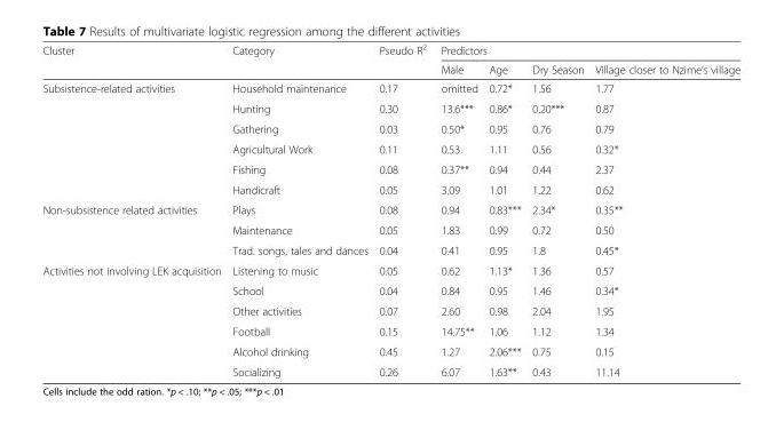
<table><thead><tr><td rowspan="2">Cluster</td><td rowspan="2">Category</td><td rowspan="2">Pseudo R<sup>2</sup></td><td colspan="4">Predictors</td></tr><tr><td>Male</td><td>Age</td><td>Dry Season</td><td>Village closer to Nzime’s village</td></tr></thead><tbody><tr><td rowspan="6">Subsistence-related activities</td><td>Household maintenance</td><td>0.17</td><td>omitted</td><td>0.72*</td><td>1.56</td><td>1.77</td></tr><tr><td>Hunting</td><td>0.30</td><td>13.6***</td><td>0.86*</td><td>0.20***</td><td>0.87</td></tr><tr><td>Gathering</td><td>0.03</td><td>0.50*</td><td>0.95</td><td>0.76</td><td>0.79</td></tr><tr><td>Agricultural Work</td><td>0.11</td><td>0.53</td><td>1.11</td><td>0.56</td><td>0.32*</td></tr><tr><td>Fishing</td><td>0.08</td><td>0.37**</td><td>0.94</td><td>0.44</td><td>2.37</td></tr><tr><td>Handicraft</td><td>0.05</td><td>3.09</td><td>1.01</td><td>1.22</td><td>0.62</td></tr><tr><td rowspan="3">Non-subsistence related activities</td><td>Plays</td><td>0.08</td><td>0.94</td><td>0.83***</td><td>2.34*</td><td>0.35**</td></tr><tr><td>Maintenance</td><td>0.05</td><td>1.83</td><td>0.99</td><td>0.72</td><td>0.50</td></tr><tr><td>Trad. songs, tales and dances</td><td>0.04</td><td>0.41</td><td>0.95</td><td>1.8</td><td>0.45*</td></tr><tr><td rowspan="6">Activities not involving LEK acquisition</td><td>Listening to music</td><td>0.05</td><td>0.62</td><td>1.13*</td><td>1.36</td><td>0.57</td></tr><tr><td>School</td><td>0.04</td><td>0.84</td><td>0.95</td><td>1.46</td><td>0.34*</td></tr><tr><td>Other activities</td><td>0.07</td><td>2.60</td><td>0.98</td><td>2.04</td><td>1.95</td></tr><tr><td>Football</td><td>0.15</td><td>14.75**</td><td>1.06</td><td>1.12</td><td>1.34</td></tr><tr><td>Alcohol drinking</td><td>0.45</td><td>1.27</td><td>2.06***</td><td>0.75</td><td>0.15</td></tr><tr><td>Socializing</td><td>0.26</td><td>6.07</td><td>1.63**</td><td>0.43</td><td>11.14</td></tr></tbody></table>